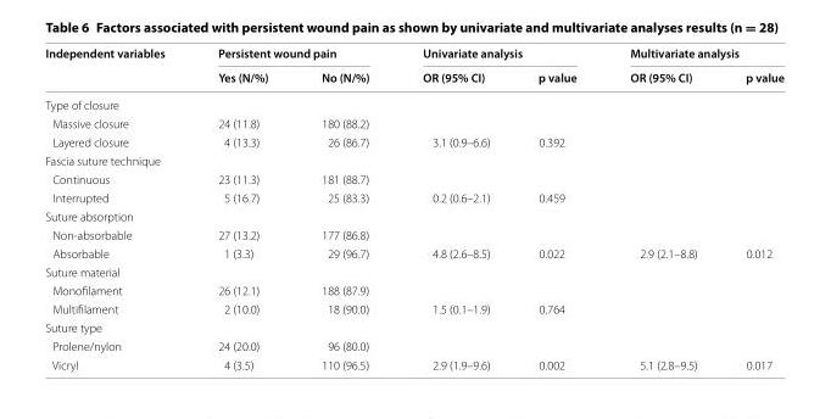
<table><thead><tr><td rowspan="2">Independent variables</td><td colspan="2">Persistent wound pain</td><td colspan="2">Univariate analysis</td><td colspan="2">Multivariate analysis</td></tr><tr><td>Yes (N/%)</td><td>No (N/%)</td><td>OR (95% CI)</td><td>p value</td><td>OR (95% CI)</td><td>p value</td></tr></thead><tbody><tr><td colspan="7">Type of closure</td></tr><tr><td>Massive closure</td><td>24 (11.8)</td><td>180 (88.2)</td><td></td><td></td><td></td><td></td></tr><tr><td>Layered closure</td><td>4 (13.3)</td><td>26 (86.7)</td><td>3.1 (0.9–6.6)</td><td>0.392</td><td></td><td></td></tr><tr><td colspan="7">Fascia suture technique</td></tr><tr><td>Continuous</td><td>23 (11.3)</td><td>181 (88.7)</td><td></td><td></td><td></td><td></td></tr><tr><td>Interrupted</td><td>5 (16.7)</td><td>25 (83.3)</td><td>0.2 (0.6–2.1)</td><td>0.459</td><td></td><td></td></tr><tr><td colspan="7">Suture absorption</td></tr><tr><td>Non-absorbable</td><td>27 (13.2)</td><td>177 (86.8)</td><td></td><td></td><td></td><td></td></tr><tr><td>Absorbable</td><td>1 (3.3)</td><td>29 (96.7)</td><td>4.8 (2.6–8.5)</td><td>0.022</td><td>2.9 (2.1–8.8)</td><td>0.012</td></tr><tr><td colspan="7">Suture material</td></tr><tr><td>Monofilament</td><td>26 (12.1)</td><td>188 (87.9)</td><td></td><td></td><td></td><td></td></tr><tr><td>Multifilament</td><td>2 (10.0)</td><td>18 (90.0)</td><td>1.5 (0.1–1.9)</td><td>0.764</td><td></td><td></td></tr><tr><td colspan="7">Suture type</td></tr><tr><td>Prolene/nylon</td><td>24 (20.0)</td><td>96 (80.0)</td><td></td><td></td><td></td><td></td></tr><tr><td>Vicryl</td><td>4 (3.5)</td><td>110 (96.5)</td><td>2.9 (1.9–9.6)</td><td>0.002</td><td>5.1 (2.8–9.5)</td><td>0.017</td></tr></tbody></table>